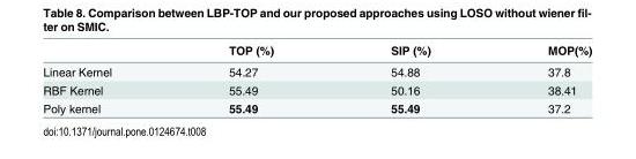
<table><thead><tr><td></td><td>TOP (%)</td><td>SIP (%)</td><td>MOP(%)</td></tr></thead><tbody><tr><td>Linear Kernel</td><td>54.27</td><td>54.88</td><td>37.8</td></tr><tr><td>RBF Kernel</td><td>55.49</td><td>50.16</td><td>38.41</td></tr><tr><td>Poly kernel</td><td>55.49</td><td>55.49</td><td>37.2</td></tr></tbody></table>